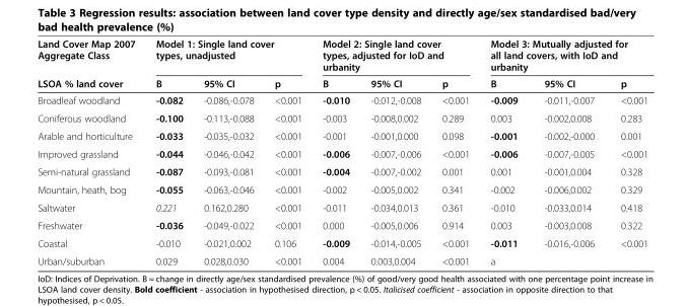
<table><thead><tr><td rowspan="2">Land Cover Map 2007 Aggregate Class LSOA % land cover</td><td colspan="3">Model 1: Single land cover types, unadjusted</td><td colspan="3">Model 2: Single land cover types, adjusted for IoD and urbanity</td><td colspan="3">Model 3: Mutually adjusted for all land covers, with IoD and urbanity</td></tr><tr><td>B</td><td>95% CI</td><td>p</td><td>B</td><td>95% CI</td><td>p</td><td>B</td><td>95% CI</td><td>p</td></tr></thead><tbody><tr><td>Broadleaf woodland</td><td>-0.082</td><td>-0.086,-0.078</td><td>&lt;0.001</td><td>-0.010</td><td>-0.012,-0.008</td><td>&lt;0.001</td><td>-0.009</td><td>-0.011,-0.007</td><td>&lt;0.001</td></tr><tr><td>Coniferous woodland</td><td>-0.100</td><td>-0.113,-0.088</td><td>&lt;0.001</td><td>-0.003</td><td>-0.008,0.002</td><td>0.289</td><td>0.003</td><td>-0.002,0.008</td><td>0.283</td></tr><tr><td>Arable and horticulture</td><td>-0.033</td><td>-0.035,-0.032</td><td>&lt;0.001</td><td>-0.001</td><td>-0.001,0.000</td><td>0.098</td><td>-0.001</td><td>-0.002,-0.000</td><td>0.001</td></tr><tr><td>Improved grassland</td><td>-0.044</td><td>-0.046,-0.042</td><td>&lt;0.001</td><td>-0.006</td><td>-0.007,-0.006</td><td>&lt;0.001</td><td>-0.006</td><td>-0.007,-0.005</td><td>&lt;0.001</td></tr><tr><td>Semi-natural grassland</td><td>-0.087</td><td>-0.093,-0.081</td><td>&lt;0.001</td><td>-0.004</td><td>-0.007,-0.002</td><td>0.001</td><td>0.001</td><td>-0.001,0.004</td><td>0.328</td></tr><tr><td>Mountain, heath, bog</td><td>-0.055</td><td>-0.063,-0.046</td><td>&lt;0.001</td><td>-0.002</td><td>-0.005,0.002</td><td>0.341</td><td>-0.002</td><td>-0.006,0.002</td><td>0.329</td></tr><tr><td>Saltwater</td><td>0.221</td><td>0.162,0.280</td><td>&lt;0.001</td><td>-0.011</td><td>-0.034,0.013</td><td>0.361</td><td>-0.010</td><td>-0.033,0.014</td><td>0.418</td></tr><tr><td>Freshwater</td><td>-0.036</td><td>-0.049,-0.022</td><td>&lt;0.001</td><td>0.000</td><td>-0.005,0.006</td><td>0.914</td><td>0.003</td><td>-0.003,0.008</td><td>0.322</td></tr><tr><td>Coastal</td><td>-0.010</td><td>-0.021,0.002</td><td>0.106</td><td>-0.009</td><td>-0.014,-0.005</td><td>&lt;0.001</td><td>-0.011</td><td>-0.016,-0.006</td><td>&lt;0.001</td></tr><tr><td>Urban/suburban</td><td>0.029</td><td>0.028,0.030</td><td>&lt;0.001</td><td>0.004</td><td>0.003,0.004</td><td>&lt;0.001</td><td>a</td><td></td><td></td></tr></tbody></table>